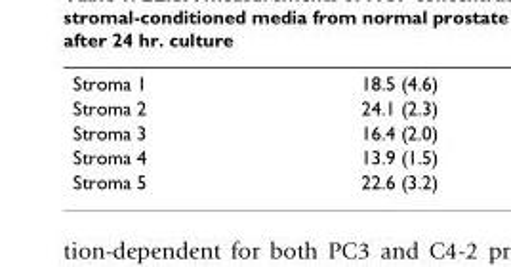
<table><tbody><tr><td>Stroma 1</td><td>18.5 (4.6)</td></tr><tr><td>Stroma 2</td><td>24.1 (2.3)</td></tr><tr><td>Stroma 3</td><td>16.4 (2.0)</td></tr><tr><td>Stroma 4</td><td>13.9 (1.5)</td></tr><tr><td>Stroma 5</td><td>22.6 (3.2)</td></tr></tbody></table>